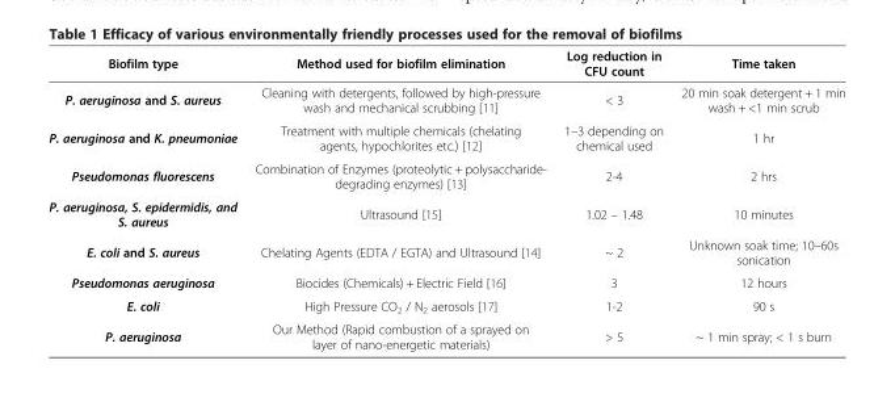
<table><thead><tr><td>Biofilm type</td><td>Method used for biofilm elimination</td><td>Log reduction in CFU count</td><td>Time taken</td></tr></thead><tbody><tr><td>P. aeruginosa and S. aureus</td><td>Cleaning with detergents, followed by high-pressure wash and mechanical scrubbing [11]</td><td>&lt; 3</td><td>20 min soak detergent + 1 min wash + &lt;1 min scrub</td></tr><tr><td>P. aeruginosa and K. pneumoniae</td><td>Treatment with multiple chemicals (chelating agents, hypochlorites etc.) [12]</td><td>1–3 depending on chemical used</td><td>1 hr</td></tr><tr><td>Pseudomonas fluorescens</td><td>Combination of Enzymes (proteolytic + polysaccharide- degrading enzymes) [13]</td><td>2-4</td><td>2 hrs</td></tr><tr><td>P. aeruginosa, S. epidermidis, and S. aureus</td><td>Ultrasound [15]</td><td>1.02 – 1.48</td><td>10 minutes</td></tr><tr><td>E. coli and S. aureus</td><td>Chelating Agents (EDTA / EGTA) and Ultrasound [14]</td><td>~ 2</td><td>Unknown soak time; 10–60s sonication</td></tr><tr><td>Pseudomonas aeruginosa</td><td>Biocides (Chemicals) + Electric Field [16]</td><td>3</td><td>12 hours</td></tr><tr><td>E. coli</td><td>High Pressure CO<sub>2</sub> / N<sub>2</sub> aerosols [17]</td><td>1-2</td><td>90 s</td></tr><tr><td>P. aeruginosa</td><td>Our Method (Rapid combustion of a sprayed on layer of nano-energetic materials)</td><td>&gt; 5</td><td>~ 1 min spray; &lt; 1 s burn</td></tr></tbody></table>